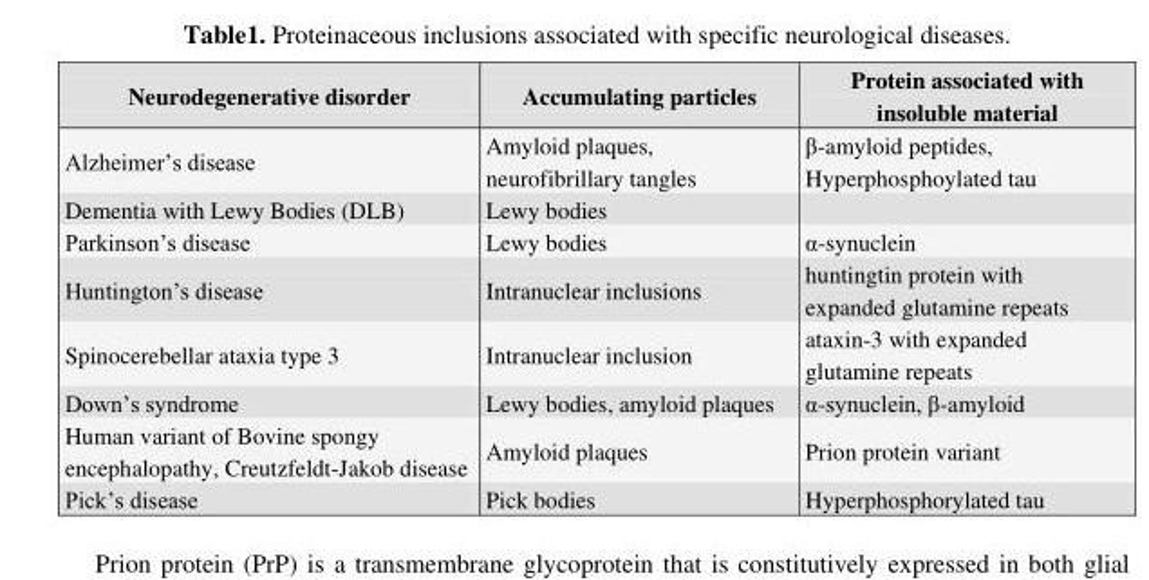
<table><thead><tr><td>Neurodegenerative disorder</td><td>Accumulating particles</td><td>Protein associated with insoluble material</td></tr></thead><tbody><tr><td>Alzheimer’s disease</td><td>Amyloid plaques, neurofibrillary tangles</td><td>β-amyloid peptides, Hyperphosphoylated tau</td></tr><tr><td>Dementia with Lewy Bodies (DLB)</td><td>Lewy bodies</td><td></td></tr><tr><td>Parkinson’s disease</td><td>Lewy bodies</td><td>α-synuclein</td></tr><tr><td>Huntington’s disease</td><td>Intranuclear inclusions</td><td>huntingtin protein with expanded glutamine repeats</td></tr><tr><td>Spinocerebellar ataxia type 3</td><td>Intranuclear inclusion</td><td>ataxin-3 with expanded glutamine repeats</td></tr><tr><td>Down’s syndrome</td><td>Lewy bodies, amyloid plaques</td><td>α-synuclein, β-amyloid</td></tr><tr><td>Human variant of Bovine spongy encephalopathy, Creutzfeldt-Jakob disease</td><td>Amyloid plaques</td><td>Prion protein variant</td></tr><tr><td>Pick’s disease</td><td>Pick bodies</td><td>Hyperphosphorylated tau</td></tr></tbody></table>